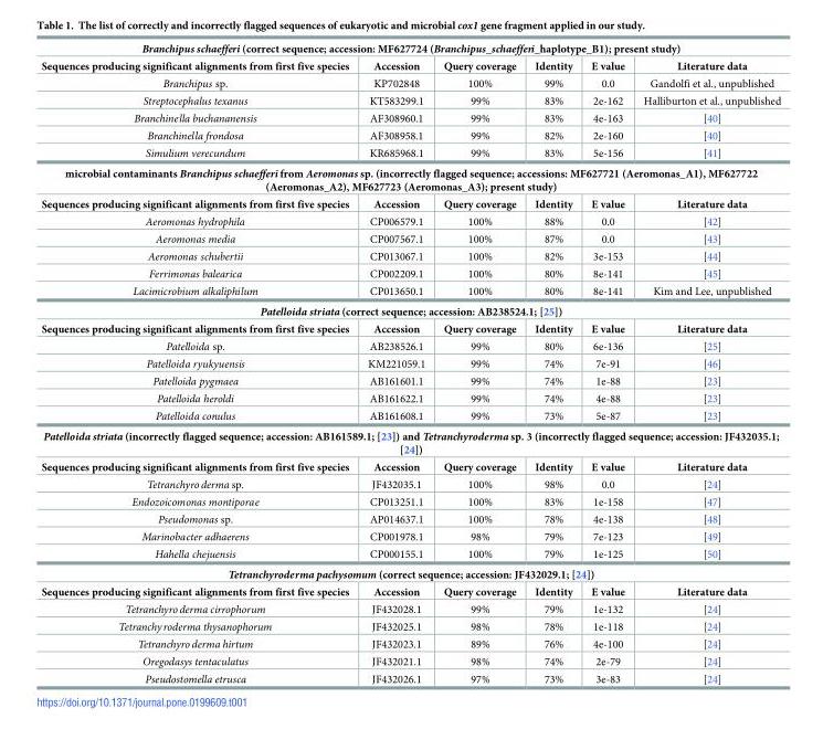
<table><tbody><tr><td colspan="6">Branchipus schaefferi (correct sequence; accession: MF627724 (Branchipus_schaefferi_haplotype_B1); present study)</td></tr><tr><td>Sequences producing significant alignments from first five species</td><td>Accession</td><td>Query coverage</td><td>Identity</td><td>E value</td><td>Literature data</td></tr><tr><td>Branchipus sp.</td><td>KP702848</td><td>100%</td><td>99%</td><td>0.0</td><td>Gandolfi et al., unpublished</td></tr><tr><td>Streptocephalus texanus</td><td>KT583299.1</td><td>99%</td><td>83%</td><td>2e-162</td><td>Halliburton et al., unpublished</td></tr><tr><td>Branchinella buchananensis</td><td>AF308960.1</td><td>99%</td><td>83%</td><td>4e-163</td><td>[40]</td></tr><tr><td>Branchinella frondosa</td><td>AF308958.1</td><td>99%</td><td>82%</td><td>2e-160</td><td>[40]</td></tr><tr><td>Simulium verecundum</td><td>KR685968.1</td><td>99%</td><td>83%</td><td>5e-156</td><td>[41]</td></tr><tr><td colspan="6">microbial contaminants Branchipus schaefferi from Aeromonas sp. (incorrectly flagged sequence; accessions: MF627721 (Aeromonas_A1), MF627722 (Aeromonas_A2), MF627723 (Aeromonas_A3); present study)</td></tr><tr><td>Sequences producing significant alignments from first five species</td><td>Accession</td><td>Query coverage</td><td>Identity</td><td>E value</td><td>Literature data</td></tr><tr><td>Aeromonas hydrophila</td><td>CP006579.1</td><td>100%</td><td>88%</td><td>0.0</td><td>[42]</td></tr><tr><td>Aeromonas media</td><td>CP007567.1</td><td>100%</td><td>87%</td><td>0.0</td><td>[43]</td></tr><tr><td>Aeromonas schubertii</td><td>CP013067.1</td><td>100%</td><td>82%</td><td>3e-153</td><td>[44]</td></tr><tr><td>Ferrimonas balearica</td><td>CP002209.1</td><td>100%</td><td>80%</td><td>8e-141</td><td>[45]</td></tr><tr><td>Lacimicrobium alkaliphilum</td><td>CP013650.1</td><td>100%</td><td>80%</td><td>8e-141</td><td>Kim and Lee, unpublished</td></tr><tr><td colspan="6">Patelloida striata (correct sequence; accession: AB238524.1; [25])</td></tr><tr><td>Sequences producing significant alignments from first five species</td><td>Accession</td><td>Query coverage</td><td>Identity</td><td>E value</td><td>Literature data</td></tr><tr><td>Patelloida sp.</td><td>AB238526.1</td><td>99%</td><td>80%</td><td>6e-136</td><td>[25]</td></tr><tr><td>Patelloida ryukyuensis</td><td>KM221059.1</td><td>99%</td><td>74%</td><td>7e-91</td><td>[46]</td></tr><tr><td>Patelloida pygmaea</td><td>AB161601.1</td><td>99%</td><td>74%</td><td>1e-88</td><td>[23]</td></tr><tr><td>Patelloida heroldi</td><td>AB161622.1</td><td>99%</td><td>74%</td><td>4e-88</td><td>[23]</td></tr><tr><td>Patelloida conulus</td><td>AB161608.1</td><td>99%</td><td>73%</td><td>5e-87</td><td>[23]</td></tr><tr><td colspan="6">Patelloida striata (incorrectly flagged sequence; accession: AB161589.1; [23]) and Tetranchyroderma sp. 3 (incorrectly flagged sequence; accession: JF432035.1; [24])</td></tr><tr><td>Sequences producing significant alignments from first five species</td><td>Accession</td><td>Query coverage</td><td>Identity</td><td>E value</td><td>Literature data</td></tr><tr><td>Tetranchyroderma sp.</td><td>JF432035.1</td><td>100%</td><td>98%</td><td>0.0</td><td>[24]</td></tr><tr><td>Endozoicomonas montiporae</td><td>CP013251.1</td><td>100%</td><td>83%</td><td>1e-158</td><td>[47]</td></tr><tr><td>Pseudomonas sp.</td><td>AP014637.1</td><td>100%</td><td>78%</td><td>4e-138</td><td>[48]</td></tr><tr><td>Marinobacter adhaerens</td><td>CP001978.1</td><td>98%</td><td>79%</td><td>7e-123</td><td>[49]</td></tr><tr><td>Hahella chejuensis</td><td>CP000155.1</td><td>100%</td><td>79%</td><td>1e-125</td><td>[50]</td></tr><tr><td colspan="6">Tetranchyroderma pachysomum (correct sequence; accession: JF432029.1; [24])</td></tr><tr><td>Sequences producing significant alignments from first five species</td><td>Accession</td><td>Query coverage</td><td>Identity</td><td>E value</td><td>Literature data</td></tr><tr><td>Tetranchyroderma cirrophorum</td><td>JF432028.1</td><td>99%</td><td>79%</td><td>1e-132</td><td>[24]</td></tr><tr><td>Tetranchyroderma thysanophorum</td><td>JF432025.1</td><td>98%</td><td>78%</td><td>1e-118</td><td>[24]</td></tr><tr><td>Tetranchyroderma hirtum</td><td>JF432023.1</td><td>89%</td><td>76%</td><td>4e-100</td><td>[24]</td></tr><tr><td>Oregodasys tentaculatus</td><td>JF432021.1</td><td>98%</td><td>74%</td><td>2e-79</td><td>[24]</td></tr><tr><td>Pseudostomella etrusca</td><td>JF432026.1</td><td>97%</td><td>73%</td><td>3e-83</td><td>[24]</td></tr></tbody></table>